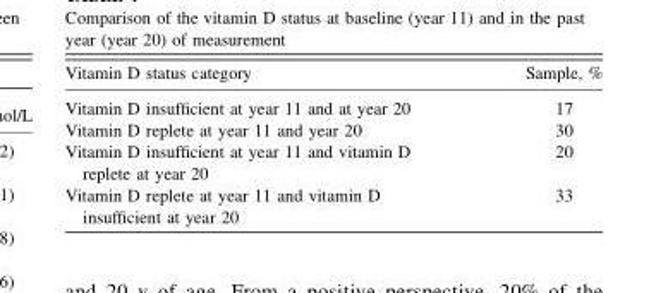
<table><thead><tr><td>Vitamin D status category</td><td>Sample, %</td></tr></thead><tbody><tr><td>Vitamin D insufficient at year 11 and at year 20</td><td>17</td></tr><tr><td>Vitamin D replete at year 11 and year 20</td><td>30</td></tr><tr><td>Vitamin D insufficient at year 11 and vitamin D replete at year 20</td><td>20</td></tr><tr><td>Vitamin D replete at year 11 and vitamin D insufficient at year 20</td><td>33</td></tr></tbody></table>